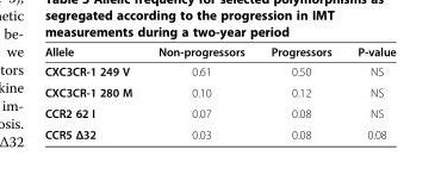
<table><thead><tr><td>Allele</td><td>Non-progressors</td><td>Progressors</td><td>P-value</td></tr></thead><tbody><tr><td>CXC3CR-1 249 V</td><td>0.61</td><td>0.50</td><td>NS</td></tr><tr><td>CXC3CR-1 280 M</td><td>0.10</td><td>0.12</td><td>NS</td></tr><tr><td>CCR2 62 I</td><td>0.07</td><td>0.08</td><td>NS</td></tr><tr><td>CCR5 Δ32</td><td>0.03</td><td>0.08</td><td>0.08</td></tr></tbody></table>